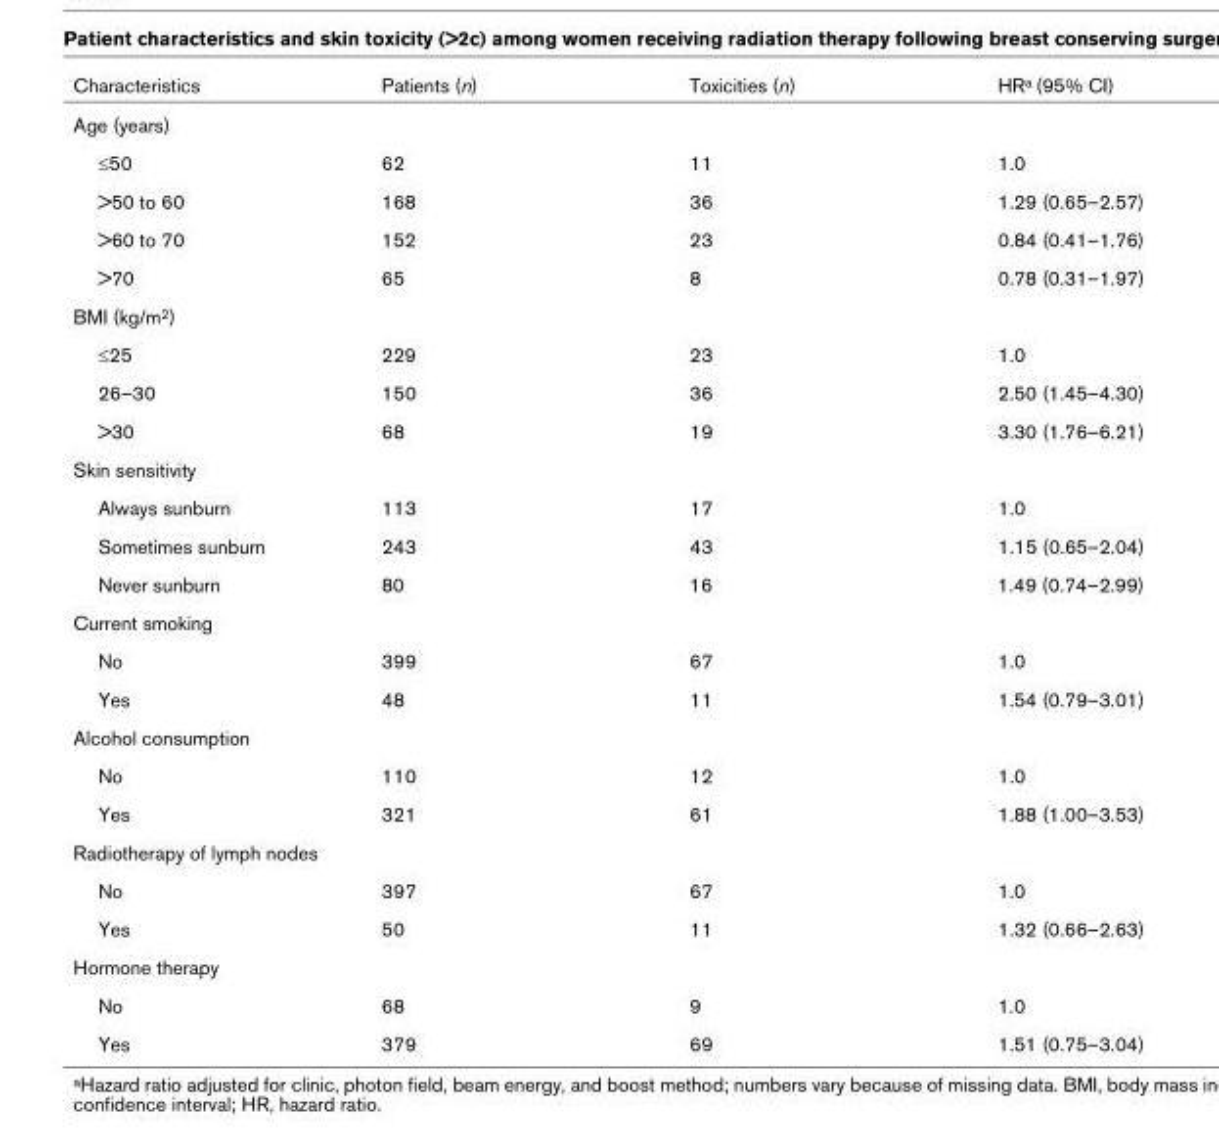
<table><thead><tr><td>Characteristics</td><td>Patients (n)</td><td>Toxicities (n)</td><td>HRa (95% CI)</td></tr></thead><tbody><tr><td colspan="4">Age (years)</td></tr><tr><td>≤50</td><td>62</td><td>11</td><td>1.0</td></tr><tr><td>&gt;50 to 60</td><td>168</td><td>36</td><td>1.29 (0.65–2.57)</td></tr><tr><td>&gt;60 to 70</td><td>152</td><td>23</td><td>0.84 (0.41–1.76)</td></tr><tr><td>&gt;70</td><td>65</td><td>8</td><td>0.78 (0.31–1.97)</td></tr><tr><td colspan="4">BMI (kg/m2)</td></tr><tr><td>≤25</td><td>229</td><td>23</td><td>1.0</td></tr><tr><td>26–30</td><td>150</td><td>36</td><td>2.50 (1.45–4.30)</td></tr><tr><td>&gt;30</td><td>68</td><td>19</td><td>3.30 (1.76–6.21)</td></tr><tr><td colspan="4">Skin sensitivity</td></tr><tr><td>Always sunburn</td><td>113</td><td>17</td><td>1.0</td></tr><tr><td>Sometimes sunburn</td><td>243</td><td>43</td><td>1.15 (0.65–2.04)</td></tr><tr><td>Never sunburn</td><td>80</td><td>16</td><td>1.49 (0.74–2.99)</td></tr><tr><td colspan="4">Current smoking</td></tr><tr><td>No</td><td>399</td><td>67</td><td>1.0</td></tr><tr><td>Yes</td><td>48</td><td>11</td><td>1.54 (0.79–3.01)</td></tr><tr><td colspan="4">Alcohol consumption</td></tr><tr><td>No</td><td>110</td><td>12</td><td>1.0</td></tr><tr><td>Yes</td><td>321</td><td>61</td><td>1.88 (1.00–3.53)</td></tr><tr><td colspan="4">Radiotherapy of lymph nodes</td></tr><tr><td>No</td><td>397</td><td>67</td><td>1.0</td></tr><tr><td>Yes</td><td>50</td><td>11</td><td>1.32 (0.66–2.63)</td></tr><tr><td colspan="4">Hormone therapy</td></tr><tr><td>No</td><td>68</td><td>9</td><td>1.0</td></tr><tr><td>Yes</td><td>379</td><td>69</td><td>1.51 (0.75–3.04)</td></tr></tbody></table>